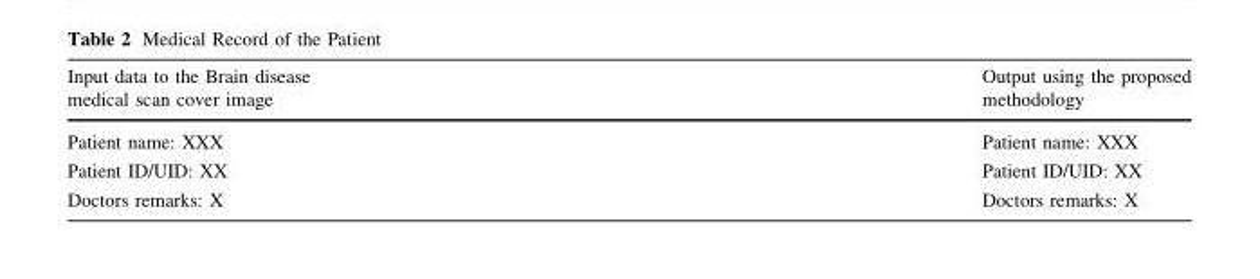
<table><thead><tr><td>Input data to the Brain disease medical scan cover image</td><td>Output using the proposed methodology</td></tr></thead><tbody><tr><td>Patient name: XXX</td><td>Patient name: XXX</td></tr><tr><td>Patient ID/UID: XX</td><td>Patient ID/UID: XX</td></tr><tr><td>Doctors remarks: X</td><td>Doctors remarks: X</td></tr></tbody></table>